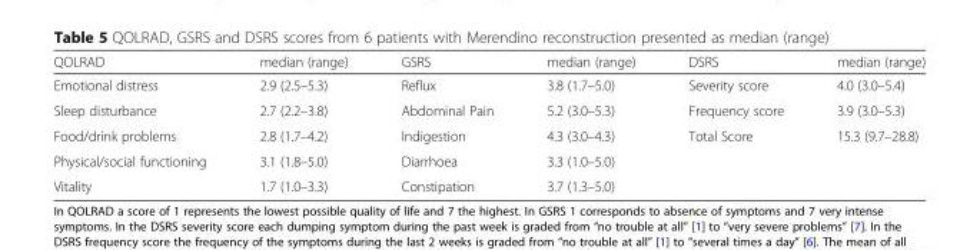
<table><thead><tr><td>QOLRAD</td><td>median (range)</td><td>GSRS</td><td>median (range)</td><td>DSRS</td><td>median (range)</td></tr></thead><tbody><tr><td>Emotional distress</td><td>2.9 (2.5–5.3)</td><td>Reflux</td><td>3.8 (1.7–5.0)</td><td>Severity score</td><td>4.0 (3.0–5.4)</td></tr><tr><td>Sleep disturbance</td><td>2.7 (2.2–3.8)</td><td>Abdominal Pain</td><td>5.2 (3.0–5.3)</td><td>Frequency score</td><td>3.9 (3.0–5.3)</td></tr><tr><td>Food/drink problems</td><td>2.8 (1.7–4.2)</td><td>Indigestion</td><td>4.3 (3.0–4.3)</td><td>Total Score</td><td>15.3 (9.7–28.8)</td></tr><tr><td>Physical/social functioning</td><td>3.1 (1.8–5.0)</td><td>Diarrhoea</td><td>3.3 (1.0–5.0)</td><td></td><td></td></tr><tr><td>Vitality</td><td>1.7 (1.0–3.3)</td><td>Constipation</td><td>3.7 (1.3–5.0)</td><td></td><td></td></tr></tbody></table>